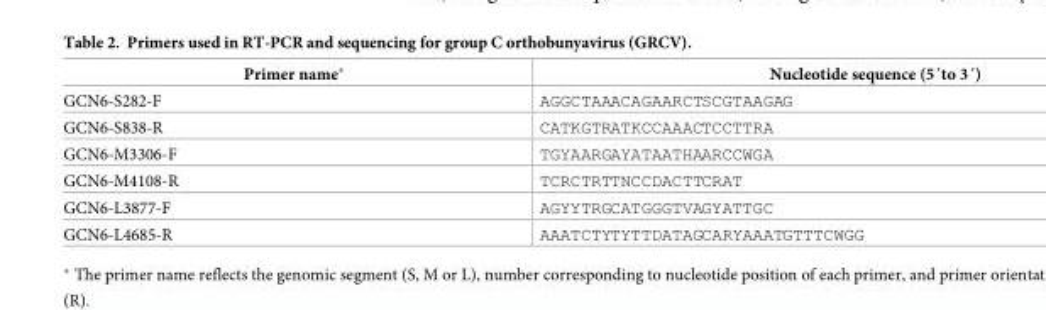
<table><thead><tr><td>Primer name*</td><td>Nucleotide sequence (5´to 3´)</td></tr></thead><tbody><tr><td>GCN6-S282-F</td><td>AGGCTAAACAGAARCTSCGTAAGAG</td></tr><tr><td>GCN6-S838-R</td><td>CATKGTRATKCCAAACTCCTTRA</td></tr><tr><td>GCN6-M3306-F</td><td>TGYAARGAYATAATHAARCCWGA</td></tr><tr><td>GCN6-M4108-R</td><td>TCRCTRTTNCCDACTTCRAT</td></tr><tr><td>GCN6-L3877-F</td><td>AGYYTRGCATGGGTVAGYATTGC</td></tr><tr><td>GCN6-L4685-R</td><td>AAATCTYTYTTDATAGCARYAAATGTTTCWGG</td></tr></tbody></table>